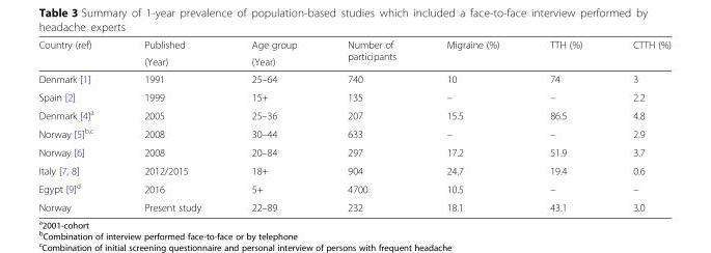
<table><thead><tr><td rowspan="2">Country (ref)</td><td rowspan="2">Published (Year)</td><td rowspan="2">Age group (Year)</td><td rowspan="2">Number of participants</td><td rowspan="2">Migraine (%)</td><td rowspan="2">TTH (%)</td><td rowspan="2">CTTH (%)</td></tr><tr></tr></thead><tbody><tr><td>Denmark [1]</td><td>1991</td><td>25–64</td><td>740</td><td>10</td><td>74</td><td>3</td></tr><tr><td>Spain [2]</td><td>1999</td><td>15+</td><td>135</td><td>–</td><td>–</td><td>2.2</td></tr><tr><td>Denmark [4]<sup>a</sup></td><td>2005</td><td>25–36</td><td>207</td><td>15.5</td><td>86.5</td><td>4.8</td></tr><tr><td>Norway [5]<sup>b,c</sup></td><td>2008</td><td>30–44</td><td>633</td><td>–</td><td>–</td><td>2.9</td></tr><tr><td>Norway [6]</td><td>2008</td><td>20–84</td><td>297</td><td>17.2</td><td>51.9</td><td>3.7</td></tr><tr><td>Italy [7, 8]</td><td>2012/2015</td><td>18+</td><td>904</td><td>24.7</td><td>19.4</td><td>0.6</td></tr><tr><td>Egypt [9]<sup>d</sup></td><td>2016</td><td>5+</td><td>4700</td><td>10.5</td><td>–</td><td>–</td></tr><tr><td>Norway</td><td>Present study</td><td>22–89</td><td>232</td><td>18.1</td><td>43.1</td><td>3.0</td></tr></tbody></table>